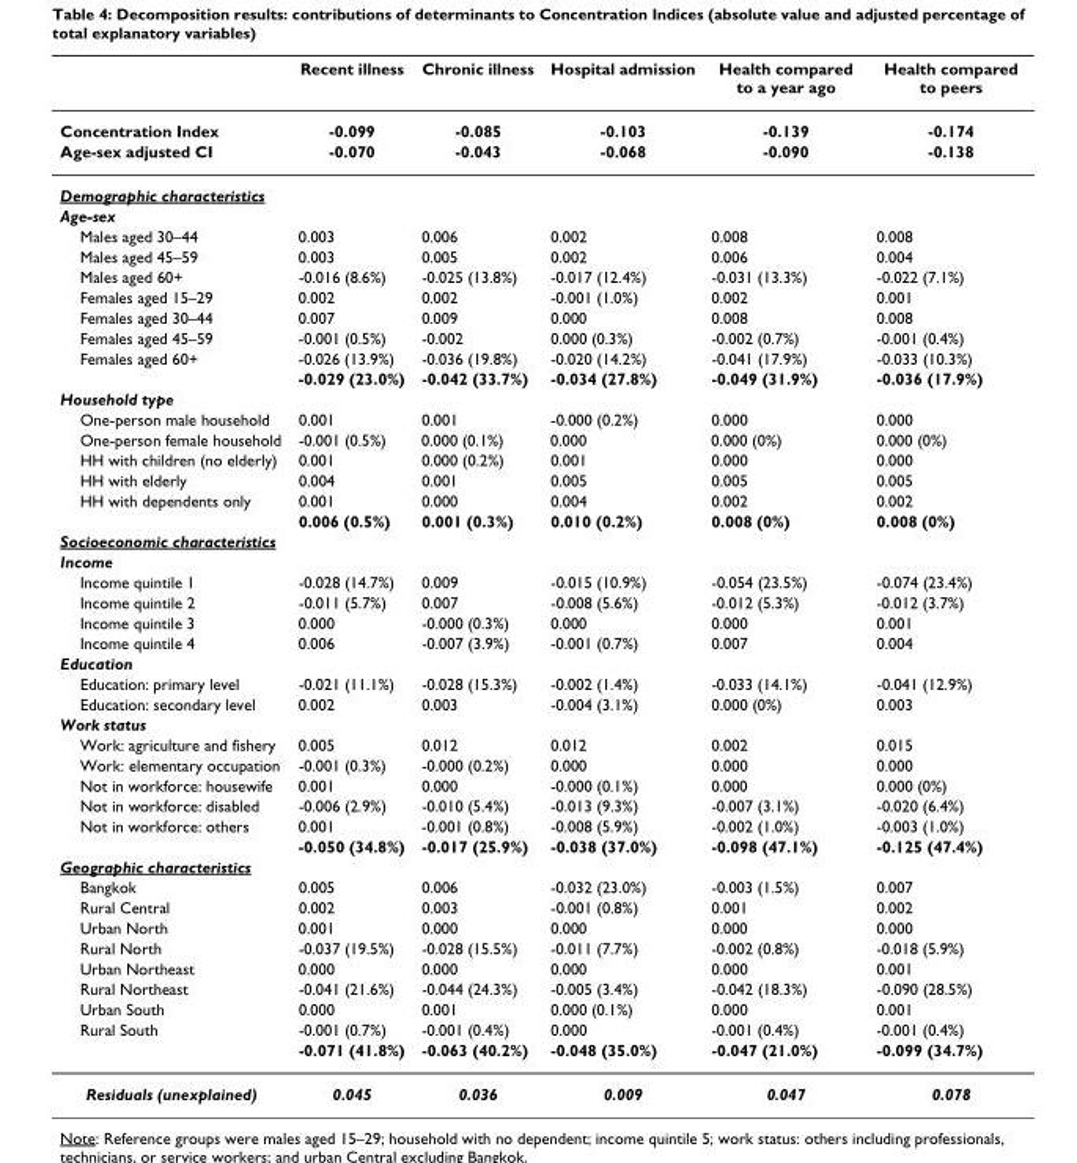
<table><thead><tr><td></td><td>Recent illness</td><td>Chronic illness</td><td>Hospital admission</td><td>Health compared to a year ago</td><td>Health compared to peers</td></tr></thead><tbody><tr><td>Concentration Index</td><td>-0.099</td><td>-0.085</td><td>-0.103</td><td>-0.139</td><td>-0.174</td></tr><tr><td>Age-sex adjusted CI</td><td>-0.070</td><td>-0.043</td><td>-0.068</td><td>-0.090</td><td>-0.138</td></tr><tr><td colspan="6">Demographic characteristics</td></tr><tr><td colspan="6">Age-sex</td></tr><tr><td>Males aged 30–44</td><td>0.003</td><td>0.006</td><td>0.002</td><td>0.008</td><td>0.008</td></tr><tr><td>Males aged 45–59</td><td>0.003</td><td>0.005</td><td>0.002</td><td>0.006</td><td>0.004</td></tr><tr><td>Males aged 60+</td><td>-0.016 (8.6%)</td><td>-0.025 (13.8%)</td><td>-0.017 (12.4%)</td><td>-0.031 (13.3%)</td><td>-0.022 (7.1%)</td></tr><tr><td>Females aged 15–29</td><td>0.002</td><td>0.002</td><td>-0.001 (1.0%)</td><td>0.002</td><td>0.001</td></tr><tr><td>Females aged 30–44</td><td>0.007</td><td>0.009</td><td>0.000</td><td>0.008</td><td>0.008</td></tr><tr><td>Females aged 45–59</td><td>-0.001 (0.5%)</td><td>-0.002</td><td>0.000 (0.3%)</td><td>-0.002 (0.7%)</td><td>-0.001 (0.4%)</td></tr><tr><td rowspan="2">Females aged 60+</td><td>-0.026 (13.9%)</td><td>-0.036 (19.8%)</td><td>-0.020 (14.2%)</td><td>-0.041 (17.9%)</td><td>-0.033 (10.3%)</td></tr><tr><td>-0.029 (23.0%)</td><td>-0.042 (33.7%)</td><td>-0.034 (27.8%)</td><td>-0.049 (31.9%)</td><td>-0.036 (17.9%)</td></tr><tr><td colspan="6">Household type</td></tr><tr><td>One-person male household</td><td>0.001</td><td>0.001</td><td>-0.000 (0.2%)</td><td>0.000</td><td>0.000</td></tr><tr><td>One-person female household</td><td>-0.001 (0.5%)</td><td>0.000 (0.1%)</td><td>0.000</td><td>0.000 (0%)</td><td>0.000 (0%)</td></tr><tr><td>HH with children (no elderly)</td><td>0.001</td><td>0.000 (0.2%)</td><td>0.001</td><td>0.000</td><td>0.000</td></tr><tr><td>HH with elderly</td><td>0.004</td><td>0.001</td><td>0.005</td><td>0.005</td><td>0.005</td></tr><tr><td rowspan="2">HH with dependents only</td><td>0.001</td><td>0.000</td><td>0.004</td><td>0.002</td><td>0.002</td></tr><tr><td>0.006 (0.5%)</td><td>0.001 (0.3%)</td><td>0.010 (0.2%)</td><td>0.008 (0%)</td><td>0.008 (0%)</td></tr><tr><td colspan="6">Socioeconomic characteristics</td></tr><tr><td colspan="6">Income</td></tr><tr><td>Income quintile 1</td><td>-0.028 (14.7%)</td><td>0.009</td><td>-0.015 (10.9%)</td><td>-0.054 (23.5%)</td><td>-0.074 (23.4%)</td></tr><tr><td>Income quintile 2</td><td>-0.011 (5.7%)</td><td>0.007</td><td>-0.008 (5.6%)</td><td>-0.012 (5.3%)</td><td>-0.012 (3.7%)</td></tr><tr><td>Income quintile 3</td><td>0.000</td><td>-0.000 (0.3%)</td><td>0.000</td><td>0.000</td><td>0.001</td></tr><tr><td>Income quintile 4</td><td>0.006</td><td>-0.007 (3.9%)</td><td>-0.001 (0.7%)</td><td>0.007</td><td>0.004</td></tr><tr><td colspan="6">Education</td></tr><tr><td>Education: primary level</td><td>-0.021 (11.1%)</td><td>-0.028 (15.3%)</td><td>-0.002 (1.4%)</td><td>-0.033 (14.1%)</td><td>-0.041 (12.9%)</td></tr><tr><td>Education: secondary level</td><td>0.002</td><td>0.003</td><td>-0.004 (3.1%)</td><td>0.000 (0%)</td><td>0.003</td></tr><tr><td colspan="6">Work status</td></tr><tr><td>Work: agriculture and fishery</td><td>0.005</td><td>0.012</td><td>0.012</td><td>0.002</td><td>0.015</td></tr><tr><td>Work: elementary occupation</td><td>-0.001 (0.3%)</td><td>-0.000 (0.2%)</td><td>0.000</td><td>0.000</td><td>0.000</td></tr><tr><td>Not in workforce: housewife</td><td>0.001</td><td>0.000</td><td>-0.000 (0.1%)</td><td>0.000</td><td>0.000 (0%)</td></tr><tr><td>Not in workforce: disabled</td><td>-0.006 (2.9%)</td><td>-0.010 (5.4%)</td><td>-0.013 (9.3%)</td><td>-0.007 (3.1%)</td><td>-0.020 (6.4%)</td></tr><tr><td rowspan="2">Not in workforce: others</td><td>0.001</td><td>-0.001 (0.8%)</td><td>-0.008 (5.9%)</td><td>-0.002 (1.0%)</td><td>-0.003 (1.0%)</td></tr><tr><td>-0.050 (34.8%)</td><td>-0.017 (25.9%)</td><td>-0.038 (37.0%)</td><td>-0.098 (47.1%)</td><td>-0.125 (47.4%)</td></tr><tr><td colspan="6">Geographic characteristics</td></tr><tr><td>Bangkok</td><td>0.005</td><td>0.006</td><td>-0.032 (23.0%)</td><td>-0.003 (1.5%)</td><td>0.007</td></tr><tr><td>Rural Central</td><td>0.002</td><td>0.003</td><td>-0.001 (0.8%)</td><td>0.001</td><td>0.002</td></tr><tr><td>Urban North</td><td>0.001</td><td>0.000</td><td>0.000</td><td>0.000</td><td>0.000</td></tr><tr><td>Rural North</td><td>-0.037 (19.5%)</td><td>-0.028 (15.5%)</td><td>-0.011 (7.7%)</td><td>-0.002 (0.8%)</td><td>-0.018 (5.9%)</td></tr><tr><td>Urban Northeast</td><td>0.000</td><td>0.000</td><td>0.000</td><td>0.000</td><td>0.001</td></tr><tr><td>Rural Northeast</td><td>-0.041 (21.6%)</td><td>-0.044 (24.3%)</td><td>-0.005 (3.4%)</td><td>-0.042 (18.3%)</td><td>-0.090 (28.5%)</td></tr><tr><td>Urban South</td><td>0.000</td><td>0.001</td><td>0.000 (0.1%)</td><td>0.000</td><td>0.001</td></tr><tr><td rowspan="2">Rural South</td><td>-0.001 (0.7%)</td><td>-0.001 (0.4%)</td><td>0.000</td><td>-0.001 (0.4%)</td><td>-0.001 (0.4%)</td></tr><tr><td>-0.071 (41.8%)</td><td>-0.063 (40.2%)</td><td>-0.048 (35.0%)</td><td>-0.047 (21.0%)</td><td>-0.099 (34.7%)</td></tr><tr><td>Residuals (unexplained)</td><td>0.045</td><td>0.036</td><td>0.009</td><td>0.047</td><td>0.078</td></tr></tbody></table>